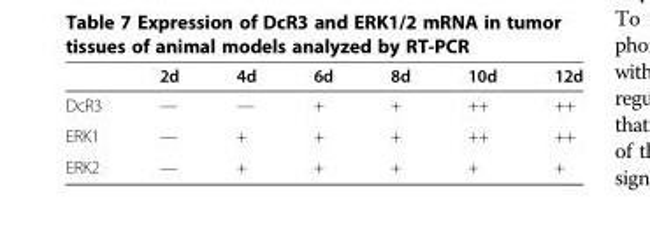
<table><thead><tr><td></td><td>2d</td><td>4d</td><td>6d</td><td>8d</td><td>10d</td><td>12d</td></tr></thead><tbody><tr><td>DcR3</td><td>—</td><td>—</td><td>+</td><td>+</td><td>++</td><td>++</td></tr><tr><td>ERK1</td><td>—</td><td>+</td><td>+</td><td>+</td><td>++</td><td>++</td></tr><tr><td>ERK2</td><td>—</td><td>+</td><td>+</td><td>+</td><td>+</td><td>+</td></tr></tbody></table>